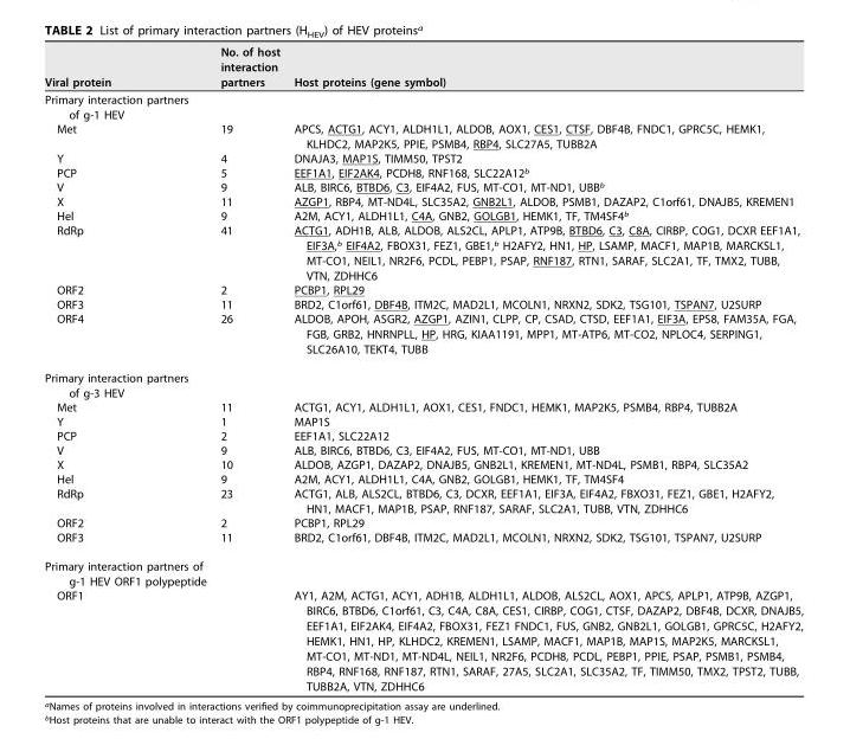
<table><thead><tr><td>Viral protein</td><td>No. of host interaction partners</td><td>Host proteins (gene symbol)</td></tr></thead><tbody><tr><td colspan="3">Primary interaction partners of g-1 HEV</td></tr><tr><td>Met</td><td>19</td><td>APCS, ACTG1, ACY1, ALDH1L1, ALDOB, AOX1, CES1, CTSF, DBF4B, FNDC1, GPRC5C, HEMK1, KLHDC2, MAP2K5, PPIE, PSMB4, RBP4, SLC27A5, TUBB2A</td></tr><tr><td>Y</td><td>4</td><td>DNAJA3, MAP1S, TIMM50, TPST2</td></tr><tr><td>PCP</td><td>5</td><td>EEF1A1, EIF2AK4, PCDH8, RNF168, SLC22A12<sup>b</sup></td></tr><tr><td>V</td><td>9</td><td>ALB, BIRC6, BTBD6, C3, EIF4A2, FUS, MT-CO1, MT-ND1, UBB<sup>b</sup></td></tr><tr><td>X</td><td>11</td><td>AZGP1, RBP4, MT-ND4L, SLC35A2, GNB2L1, ALDOB, PSMB1, DAZAP2, C1orf61, DNAJB5, KREMEN1</td></tr><tr><td>Hel</td><td>9</td><td>A2M, ACY1, ALDH1L1, C4A, GNB2, GOLGB1, HEMK1, TF, TM4SF4<sup>b</sup></td></tr><tr><td>RdRp</td><td>41</td><td>ACTG1, ADH1B, ALB, ALDOB, ALS2CL, APLP1, ATP9B, BTBD6, C3, C8A, CIRBP, COG1, DCXR EEF1A1, EIF3A,<sup>b</sup> EIF4A2, FBOX31, FEZ1, GBE1,<sup>b</sup> H2AFY2, HN1, HP, LSAMP, MACF1, MAP1B, MARCKSL1, MT-CO1, NEIL1, NR2F6, PCDL, PEBP1, PSAP, RNF187, RTN1, SARAF, SLC2A1, TF, TMX2, TUBB, VTN, ZDHHC6</td></tr><tr><td>ORF2</td><td>2</td><td>PCBP1, RPL29</td></tr><tr><td>ORF3</td><td>11</td><td>BRD2, C1orf61, DBF4B, ITM2C, MAD2L1, MCOLN1, NRXN2, SDK2, TSG101, TSPAN7, U2SURP</td></tr><tr><td>ORF4</td><td>26</td><td>ALDOB, APOH, ASGR2, AZGP1, AZIN1, CLPP, CP, CSAD, CTSD, EEF1A1, EIF3A, EPS8, FAM35A, FGA, FGB, GRB2, HNRNPLL, HP, HRG, KIAA1191, MPP1, MT-ATP6, MT-CO2, NPLOC4, SERPING1, SLC26A10, TEKT4, TUBB</td></tr><tr><td colspan="3">Primary interaction partners of g-3 HEV</td></tr><tr><td>Met</td><td>11</td><td>ACTG1, ACY1, ALDH1L1, AOX1, CES1, FNDC1, HEMK1, MAP2K5, PSMB4, RBP4, TUBB2A</td></tr><tr><td>Y</td><td>1</td><td>MAP1S</td></tr><tr><td>PCP</td><td>2</td><td>EEF1A1, SLC22A12</td></tr><tr><td>V</td><td>9</td><td>ALB, BIRC6, BTBD6, C3, EIF4A2, FUS, MT-CO1, MT-ND1, UBB</td></tr><tr><td>X</td><td>10</td><td>ALDOB, AZGP1, DAZAP2, DNAJB5, GNB2L1, KREMEN1, MT-ND4L, PSMB1, RBP4, SLC35A2</td></tr><tr><td>Hel</td><td>9</td><td>A2M, ACY1, ALDH1L1, C4A, GNB2, GOLGB1, HEMK1, TF, TM4SF4</td></tr><tr><td>RdRp</td><td>23</td><td>ACTG1, ALB, ALS2CL, BTBD6, C3, DCXR, EEF1A1, EIF3A, EIF4A2, FBXO31, FEZ1, GBE1, H2AFY2, HN1, MACF1, MAP1B, PSAP, RNF187, SARAF, SLC2A1, TUBB, VTN, ZDHHC6</td></tr><tr><td>ORF2</td><td>2</td><td>PCBP1, RPL29</td></tr><tr><td>ORF3</td><td>11</td><td>BRD2, C1orf61, DBF4B, ITM2C, MAD2L1, MCOLN1, NRXN2, SDK2, TSG101, TSPAN7, U2SURP</td></tr><tr><td colspan="3">Primary interaction partners of g-1 HEV ORF1 polypeptide</td></tr><tr><td>ORF1</td><td></td><td>AY1, A2M, ACTG1, ACY1, ADH1B, ALDH1L1, ALDOB, ALS2CL, AOX1, APCS, APLP1, ATP9B, AZGP1, BIRC6, BTBD6, C1orf61, C3, C4A, C8A, CES1, CIRBP, COG1, CTSF, DAZAP2, DBF4B, DCXR, DNAJB5, EEF1A1, EIF2AK4, EIF4A2, FBOX31, FEZ1 FNDC1, FUS, GNB2, GNB2L1, GOLGB1, GPRC5C, H2AFY2, HEMK1, HN1, HP, KLHDC2, KREMEN1, LSAMP, MACF1, MAP1B, MAP1S, MAP2K5, MARCKSL1, MT-CO1, MT-ND1, MT-ND4L, NEIL1, NR2F6, PCDH8, PCDL, PEBP1, PPIE, PSAP, PSMB1, PSMB4, RBP4, RNF168, RNF187, RTN1, SARAF, 27A5, SLC2A1, SLC35A2, TF, TIMM50, TMX2, TPST2, TUBB, TUBB2A, VTN, ZDHHC6</td></tr></tbody></table>